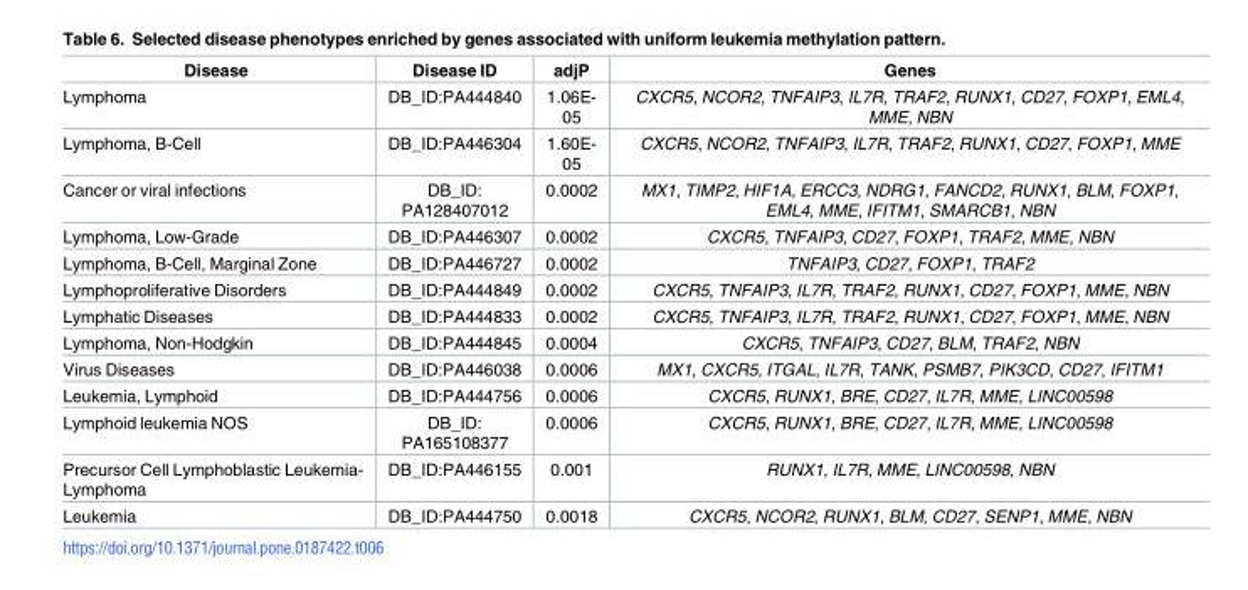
<table><thead><tr><td>Disease</td><td>Disease ID</td><td>adjP</td><td>Genes</td></tr></thead><tbody><tr><td>Lymphoma</td><td>DB_ID:PA444840</td><td>1.06E- 05</td><td>CXCR5, NCOR2, TNFAIP3, IL7R, TRAF2, RUNX1, CD27, FOXP1, EML4, MME, NBN</td></tr><tr><td>Lymphoma, B-Cell</td><td>DB_ID:PA446304</td><td>1.60E- 05</td><td>CXCR5, NCOR2, TNFAIP3, IL7R, TRAF2, RUNX1, CD27, FOXP1, MME</td></tr><tr><td>Cancer or viral infections</td><td>DB_ID: PA128407012</td><td>0.0002</td><td>MX1, TIMP2, HIF1A, ERCC3, NDRG1, FANCD2, RUNX1, BLM, FOXP1, EML4, MME, IFITM1, SMARCB1, NBN</td></tr><tr><td>Lymphoma, Low-Grade</td><td>DB_ID:PA446307</td><td>0.0002</td><td>CXCR5, TNFAIP3, CD27, FOXP1, TRAF2, MME, NBN</td></tr><tr><td>Lymphoma, B-Cell, Marginal Zone</td><td>DB_ID:PA446727</td><td>0.0002</td><td>TNFAIP3, CD27, FOXP1, TRAF2</td></tr><tr><td>Lymphoproliferative Disorders</td><td>DB_ID:PA444849</td><td>0.0002</td><td>CXCR5, TNFAIP3, IL7R, TRAF2, RUNX1, CD27, FOXP1, MME, NBN</td></tr><tr><td>Lymphatic Diseases</td><td>DB_ID:PA444833</td><td>0.0002</td><td>CXCR5, TNFAIP3, IL7R, TRAF2, RUNX1, CD27, FOXP1, MME, NBN</td></tr><tr><td>Lymphoma, Non-Hodgkin</td><td>DB_ID:PA444845</td><td>0.0004</td><td>CXCR5, TNFAIP3, CD27, BLM, TRAF2, NBN</td></tr><tr><td>Virus Diseases</td><td>DB_ID:PA446038</td><td>0.0006</td><td>MX1, CXCR5, ITGAL, IL7R, TANK, PSMB7, PIK3CD, CD27, IFITM1</td></tr><tr><td>Leukemia, Lymphoid</td><td>DB_ID:PA444756</td><td>0.0006</td><td>CXCR5, RUNX1, BRE, CD27, IL7R, MME, LINC00598</td></tr><tr><td>Lymphoid leukemia NOS</td><td>DB_ID: PA165108377</td><td>0.0006</td><td>CXCR5, RUNX1, BRE, CD27, IL7R, MME, LINC00598</td></tr><tr><td>Precursor Cell Lymphoblastic Leukemia- Lymphoma</td><td>DB_ID:PA446155</td><td>0.001</td><td>RUNX1, IL7R, MME, LINC00598, NBN</td></tr><tr><td>Leukemia</td><td>DB_ID:PA444750</td><td>0.0018</td><td>CXCR5, NCOR2, RUNX1, BLM, CD27, SENP1, MME, NBN</td></tr></tbody></table>